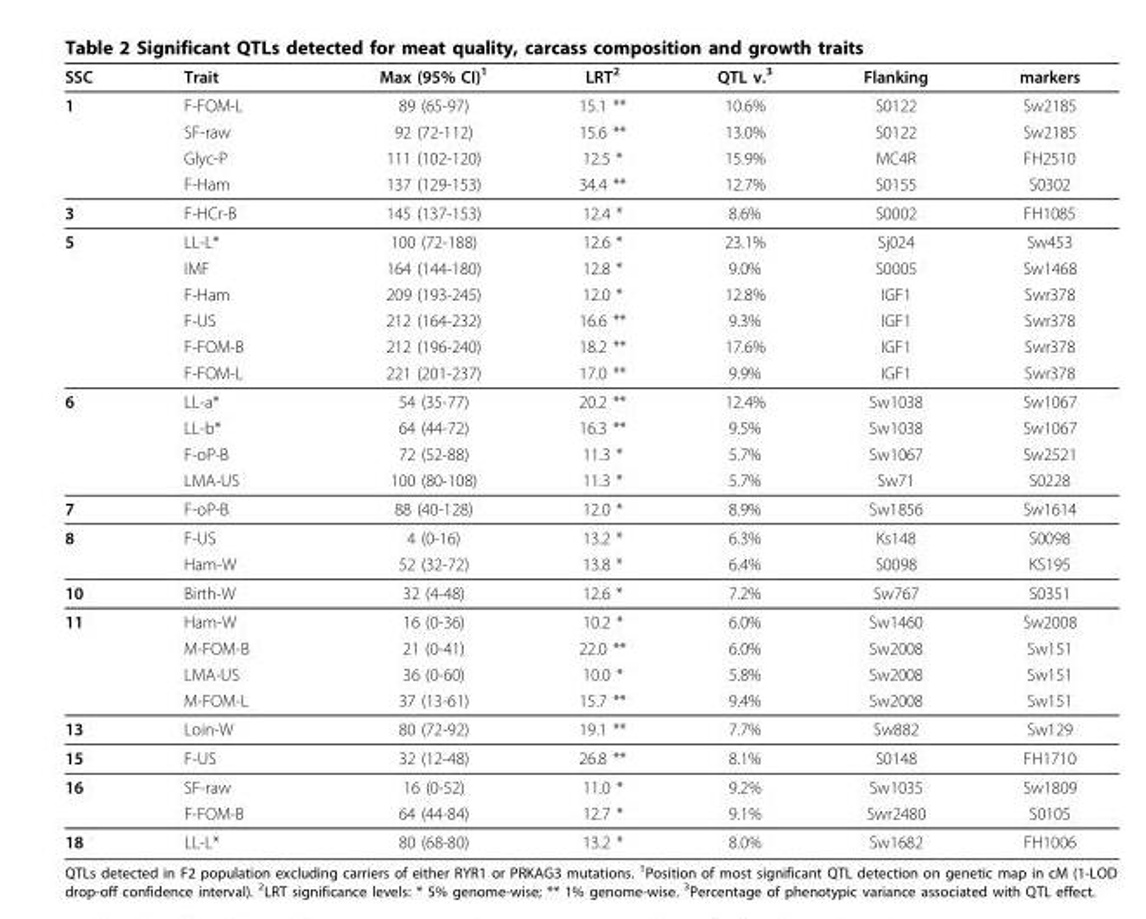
<table><thead><tr><td>SSC</td><td>Trait</td><td>Max (95% CI)<sup>1</sup></td><td>LRT<sup>2</sup></td><td>QTL v.<sup>3</sup></td><td>Flanking</td><td>markers</td></tr></thead><tbody><tr><td rowspan="4">1</td><td>F-FOM-L</td><td>89 (65-97)</td><td>15.1 **</td><td>10.6%</td><td>S0122</td><td>Sw2185</td></tr><tr><td>SF-raw</td><td>92 (72-112)</td><td>15.6 **</td><td>13.0%</td><td>S0122</td><td>Sw2185</td></tr><tr><td>Glyc-P</td><td>111 (102-120)</td><td>12.5 *</td><td>15.9%</td><td>MC4R</td><td>FH2510</td></tr><tr><td>F-Ham</td><td>137 (129-153)</td><td>34.4 **</td><td>12.7%</td><td>S0155</td><td>S0302</td></tr><tr><td>3</td><td>F-HCr-B</td><td>145 (137-153)</td><td>12.4 *</td><td>8.6%</td><td>S0002</td><td>FH1085</td></tr><tr><td rowspan="6">5</td><td>LL-L*</td><td>100 (72-188)</td><td>12.6 *</td><td>23.1%</td><td>Sj024</td><td>Sw453</td></tr><tr><td>IMF</td><td>164 (144-180)</td><td>12.8 *</td><td>9.0%</td><td>S0005</td><td>Sw1468</td></tr><tr><td>F-Ham</td><td>209 (193-245)</td><td>12.0 *</td><td>12.8%</td><td>IGF1</td><td>Swr378</td></tr><tr><td>F-US</td><td>212 (164-232)</td><td>16.6 **</td><td>9.3%</td><td>IGF1</td><td>Swr378</td></tr><tr><td>F-FOM-B</td><td>212 (196-240)</td><td>18.2 **</td><td>17.6%</td><td>IGF1</td><td>Swr378</td></tr><tr><td>F-FOM-L</td><td>221 (201-237)</td><td>17.0 **</td><td>9.9%</td><td>IGF1</td><td>Swr378</td></tr><tr><td rowspan="4">6</td><td>LL-a*</td><td>54 (35-77)</td><td>20.2 **</td><td>12.4%</td><td>Sw1038</td><td>Sw1067</td></tr><tr><td>LL-b*</td><td>64 (44-72)</td><td>16.3 **</td><td>9.5%</td><td>Sw1038</td><td>Sw1067</td></tr><tr><td>F-oP-B</td><td>72 (52-88)</td><td>11.3 *</td><td>5.7%</td><td>Sw1067</td><td>Sw2521</td></tr><tr><td>LMA-US</td><td>100 (80-108)</td><td>11.3 *</td><td>5.7%</td><td>Sw71</td><td>S0228</td></tr><tr><td>7</td><td>F-oP-B</td><td>88 (40-128)</td><td>12.0 *</td><td>8.9%</td><td>Sw1856</td><td>Sw1614</td></tr><tr><td rowspan="2">8</td><td>F-US</td><td>4 (0-16)</td><td>13.2 *</td><td>6.3%</td><td>Ks148</td><td>S0098</td></tr><tr><td>Ham-W</td><td>52 (32-72)</td><td>13.8 *</td><td>6.4%</td><td>S0098</td><td>KS195</td></tr><tr><td>10</td><td>Birth-W</td><td>32 (4-48)</td><td>12.6 *</td><td>7.2%</td><td>Sw767</td><td>S0351</td></tr><tr><td rowspan="4">11</td><td>Ham-W</td><td>16 (0-36)</td><td>10.2 *</td><td>6.0%</td><td>Sw1460</td><td>Sw2008</td></tr><tr><td>M-FOM-B</td><td>21 (0-41)</td><td>22.0 **</td><td>6.0%</td><td>Sw2008</td><td>Sw151</td></tr><tr><td>LMA-US</td><td>36 (0-60)</td><td>10.0 *</td><td>5.8%</td><td>Sw2008</td><td>Sw151</td></tr><tr><td>M-FOM-L</td><td>37 (13-61)</td><td>15.7 **</td><td>9.4%</td><td>Sw2008</td><td>Sw151</td></tr><tr><td>13</td><td>Loin-W</td><td>80 (72-92)</td><td>19.1 **</td><td>7.7%</td><td>Sw882</td><td>Sw129</td></tr><tr><td>15</td><td>F-US</td><td>32 (12-48)</td><td>26.8 **</td><td>8.1%</td><td>S0148</td><td>FH1710</td></tr><tr><td rowspan="2">16</td><td>SF-raw</td><td>16 (0-52)</td><td>11.0 *</td><td>9.2%</td><td>Sw1035</td><td>Sw1809</td></tr><tr><td>F-FOM-B</td><td>64 (44-84)</td><td>12.7 *</td><td>9.1%</td><td>Swr2480</td><td>S0105</td></tr><tr><td>18</td><td>LL-L*</td><td>80 (68-80)</td><td>13.2 *</td><td>8.0%</td><td>Sw1682</td><td>FH1006</td></tr></tbody></table>